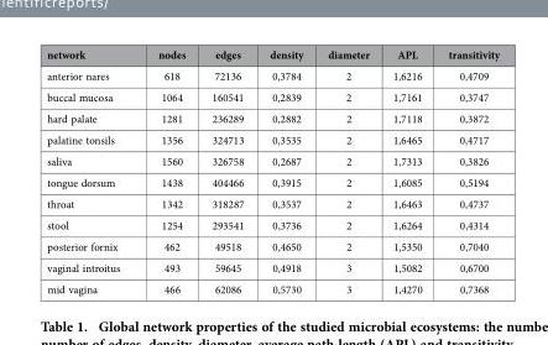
<table><thead><tr><td>network</td><td>nodes</td><td>edges</td><td>density</td><td>diameter</td><td>APL</td><td>transitivity</td></tr></thead><tbody><tr><td>anterior nares</td><td>618</td><td>72136</td><td>0,3784</td><td>2</td><td>1,6216</td><td>0,4709</td></tr><tr><td>buccal mucosa</td><td>1064</td><td>160541</td><td>0,2839</td><td>2</td><td>1,7161</td><td>0,3747</td></tr><tr><td>hard palate</td><td>1281</td><td>236289</td><td>0,2882</td><td>2</td><td>1,7118</td><td>0,3872</td></tr><tr><td>palatine tonsils</td><td>1356</td><td>324713</td><td>0,3535</td><td>2</td><td>1,6465</td><td>0,4717</td></tr><tr><td>saliva</td><td>1560</td><td>326758</td><td>0,2687</td><td>2</td><td>1,7313</td><td>0,3826</td></tr><tr><td>tongue dorsum</td><td>1438</td><td>404466</td><td>0,3915</td><td>2</td><td>1,6085</td><td>0,5194</td></tr><tr><td>throat</td><td>1342</td><td>318287</td><td>0,3537</td><td>2</td><td>1,6463</td><td>0,4737</td></tr><tr><td>stool</td><td>1254</td><td>293541</td><td>0,3736</td><td>2</td><td>1,6264</td><td>0,4314</td></tr><tr><td>posterior fornix</td><td>462</td><td>49518</td><td>0,4650</td><td>2</td><td>1,5350</td><td>0,7040</td></tr><tr><td>vaginal introitus</td><td>493</td><td>59645</td><td>0,4918</td><td>3</td><td>1,5082</td><td>0,6700</td></tr><tr><td>mid vagina</td><td>466</td><td>62086</td><td>0,5730</td><td>3</td><td>1,4270</td><td>0,7368</td></tr></tbody></table>